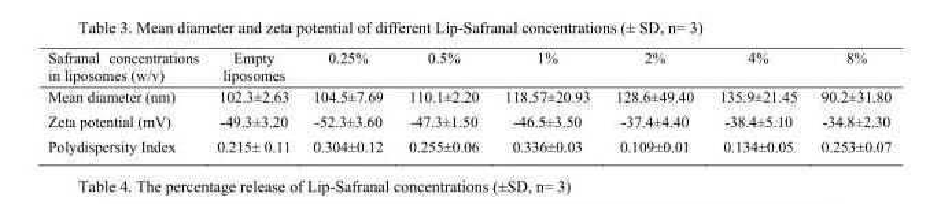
<table><thead><tr><td>Safranal concentrations in liposomes (w/v)</td><td>Empty liposomes</td><td>0.25%</td><td>0.5%</td><td>1%</td><td>2%</td><td>4%</td><td>8%</td></tr></thead><tbody><tr><td>Mean diameter (nm)</td><td>102.3±2.63</td><td>104.5±7.69</td><td>110.1±2.20</td><td>118.57±20.93</td><td>128.6±49.40</td><td>135.9±21.45</td><td>90.2±31.80</td></tr><tr><td>Zeta potential (mV)</td><td>-49.3±3.20</td><td>-52.3±3.60</td><td>-47.3±1.50</td><td>-46.5±3.50</td><td>-37.4±4.40</td><td>-38.4±5.10</td><td>-34.8±2.30</td></tr><tr><td>Polydispersity Index</td><td>0.215± 0.11</td><td>0.304±0.12</td><td>0.255±0.06</td><td>0.336±0.03</td><td>0.109±0.01</td><td>0.134±0.05</td><td>0.253±0.07</td></tr></tbody></table>